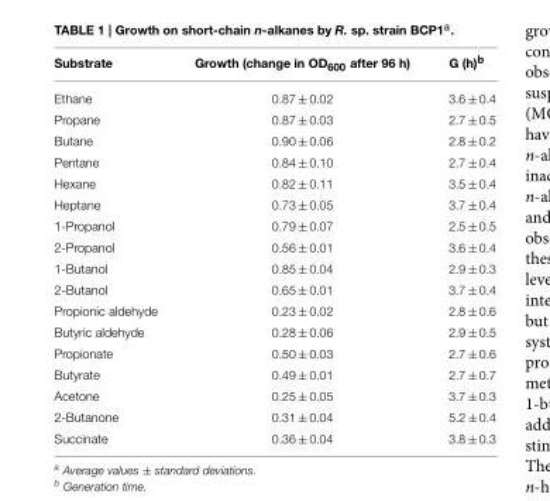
<table><thead><tr><td>Substrate</td><td>Growth (change in OD<sub>600</sub> after 96 h)</td><td>G (h)<sup>b</sup></td></tr></thead><tbody><tr><td>Ethane</td><td>0.87 ± 0.02</td><td>3.6 ± 0.4</td></tr><tr><td>Propane</td><td>0.87 ± 0.03</td><td>2.7 ± 0.5</td></tr><tr><td>Butane</td><td>0.90 ± 0.06</td><td>2.8 ± 0.2</td></tr><tr><td>Pentane</td><td>0.84 ± 0.10</td><td>2.7 ± 0.4</td></tr><tr><td>Hexane</td><td>0.82 ± 0.11</td><td>3.5 ± 0.4</td></tr><tr><td>Heptane</td><td>0.73 ± 0.05</td><td>3.7 ± 0.4</td></tr><tr><td>1-Propanol</td><td>0.79 ± 0.07</td><td>2.5 ± 0.5</td></tr><tr><td>2-Propanol</td><td>0.56 ± 0.01</td><td>3.6 ± 0.4</td></tr><tr><td>1-Butanol</td><td>0.85 ± 0.04</td><td>2.9 ± 0.3</td></tr><tr><td>2-Butanol</td><td>0.65 ± 0.01</td><td>3.7 ± 0.4</td></tr><tr><td>Propionic aldehyde</td><td>0.23 ± 0.02</td><td>2.8 ± 0.6</td></tr><tr><td>Butyric aldehyde</td><td>0.28 ± 0.06</td><td>2.9 ± 0.5</td></tr><tr><td>Propionate</td><td>0.50 ± 0.03</td><td>2.7 ± 0.6</td></tr><tr><td>Butyrate</td><td>0.49 ± 0.01</td><td>2.7 ± 0.7</td></tr><tr><td>Acetone</td><td>0.25 ± 0.05</td><td>3.7 ± 0.3</td></tr><tr><td>2-Butanone</td><td>0.31 ± 0.04</td><td>5.2 ± 0.4</td></tr><tr><td>Succinate</td><td>0.36 ± 0.04</td><td>3.8 ± 0.3</td></tr></tbody></table>